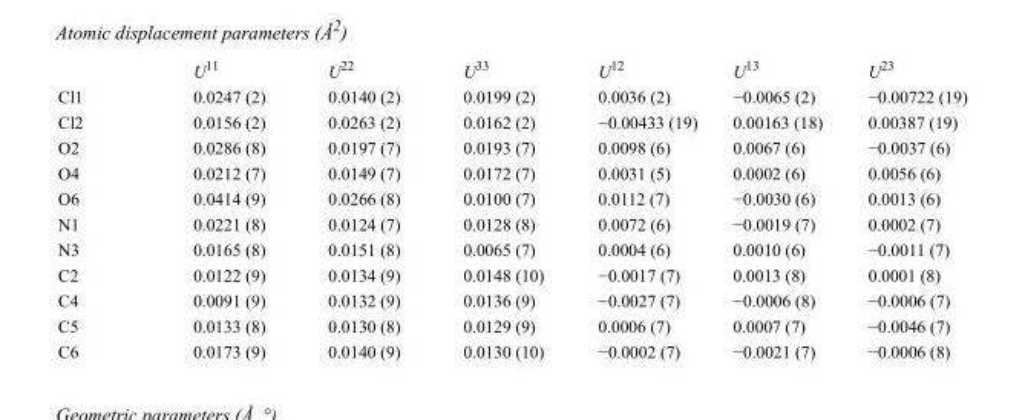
<table><thead><tr><td></td><td>U<sup>11</sup></td><td>U<sup>22</sup></td><td>U<sup>33</sup></td><td>U<sup>12</sup></td><td>U<sup>13</sup></td><td>U<sup>23</sup></td></tr></thead><tbody><tr><td>Cl1</td><td>0.0247 (2)</td><td>0.0140 (2)</td><td>0.0199 (2)</td><td>0.0036 (2)</td><td>−0.0065 (2)</td><td>−0.00722 (19)</td></tr><tr><td>Cl2</td><td>0.0156 (2)</td><td>0.0263 (2)</td><td>0.0162 (2)</td><td>−0.00433 (19)</td><td>0.00163 (18)</td><td>0.00387 (19)</td></tr><tr><td>O2</td><td>0.0286 (8)</td><td>0.0197 (7)</td><td>0.0193 (7)</td><td>0.0098 (6)</td><td>0.0067 (6)</td><td>−0.0037 (6)</td></tr><tr><td>O4</td><td>0.0212 (7)</td><td>0.0149 (7)</td><td>0.0172 (7)</td><td>0.0031 (5)</td><td>0.0002 (6)</td><td>0.0056 (6)</td></tr><tr><td>O6</td><td>0.0414 (9)</td><td>0.0266 (8)</td><td>0.0100 (7)</td><td>0.0112 (7)</td><td>−0.0030 (6)</td><td>0.0013 (6)</td></tr><tr><td>N1</td><td>0.0221 (8)</td><td>0.0124 (7)</td><td>0.0128 (8)</td><td>0.0072 (6)</td><td>−0.0019 (7)</td><td>0.0002 (7)</td></tr><tr><td>N3</td><td>0.0165 (8)</td><td>0.0151 (8)</td><td>0.0065 (7)</td><td>0.0004 (6)</td><td>0.0010 (6)</td><td>−0.0011 (7)</td></tr><tr><td>C2</td><td>0.0122 (9)</td><td>0.0134 (9)</td><td>0.0148 (10)</td><td>−0.0017 (7)</td><td>0.0013 (8)</td><td>0.0001 (8)</td></tr><tr><td>C4</td><td>0.0091 (9)</td><td>0.0132 (9)</td><td>0.0136 (9)</td><td>−0.0027 (7)</td><td>−0.0006 (8)</td><td>−0.0006 (7)</td></tr><tr><td>C5</td><td>0.0133 (8)</td><td>0.0130 (8)</td><td>0.0129 (9)</td><td>0.0006 (7)</td><td>0.0007 (7)</td><td>−0.0046 (7)</td></tr><tr><td>C6</td><td>0.0173 (9)</td><td>0.0140 (9)</td><td>0.0130 (10)</td><td>−0.0002 (7)</td><td>−0.0021 (7)</td><td>−0.0006 (8)</td></tr></tbody></table>